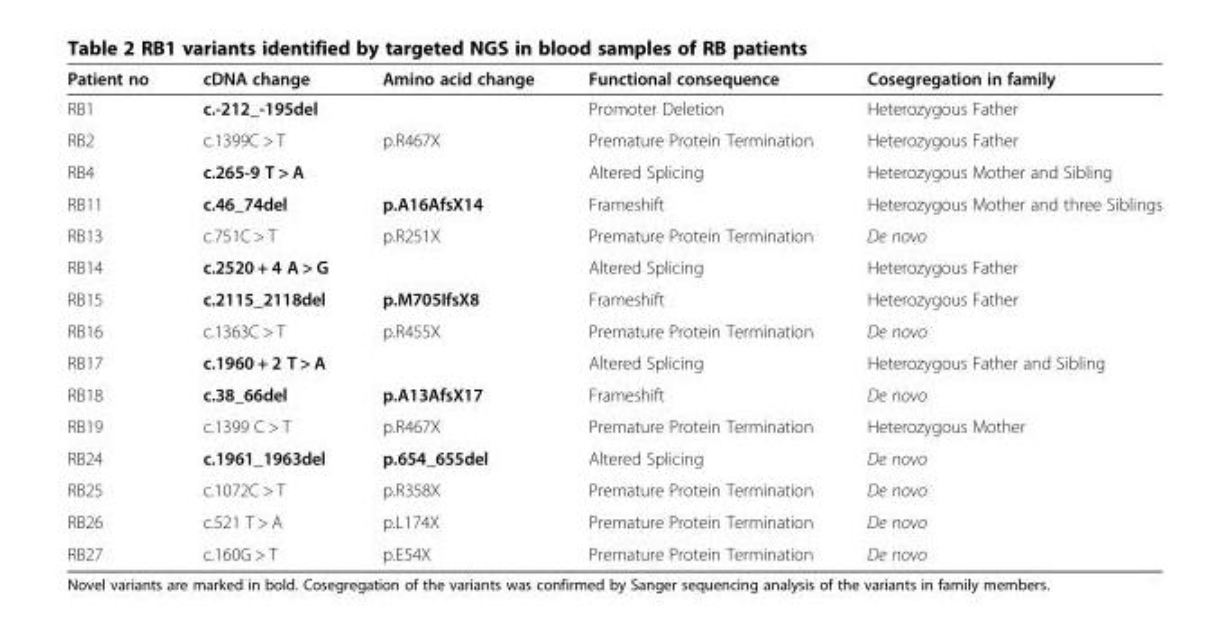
<table><thead><tr><td>Patient no</td><td>cDNA change</td><td>Amino acid change</td><td>Functional consequence</td><td>Cosegregation in family</td></tr></thead><tbody><tr><td>RB1</td><td>c.-212_-195del</td><td></td><td>Promoter Deletion</td><td>Heterozygous Father</td></tr><tr><td>RB2</td><td>c.1399C &gt; T</td><td>p.R467X</td><td>Premature Protein Termination</td><td>Heterozygous Father</td></tr><tr><td>RB4</td><td>c.265-9 T &gt; A</td><td></td><td>Altered Splicing</td><td>Heterozygous Mother and Sibling</td></tr><tr><td>RB11</td><td>c.46_74del</td><td>p.A16AfsX14</td><td>Frameshift</td><td>Heterozygous Mother and three Siblings</td></tr><tr><td>RB13</td><td>c.751C &gt; T</td><td>p.R251X</td><td>Premature Protein Termination</td><td>De novo</td></tr><tr><td>RB14</td><td>c.2520 + 4 A &gt; G</td><td></td><td>Altered Splicing</td><td>Heterozygous Father</td></tr><tr><td>RB15</td><td>c.2115_2118del</td><td>p.M705IfsX8</td><td>Frameshift</td><td>Heterozygous Father</td></tr><tr><td>RB16</td><td>c.1363C &gt; T</td><td>p.R455X</td><td>Premature Protein Termination</td><td>De novo</td></tr><tr><td>RB17</td><td>c.1960 + 2 T &gt; A</td><td></td><td>Altered Splicing</td><td>Heterozygous Father and Sibling</td></tr><tr><td>RB18</td><td>c.38_66del</td><td>p.A13AfsX17</td><td>Frameshift</td><td>De novo</td></tr><tr><td>RB19</td><td>c.1399 C &gt; T</td><td>p.R467X</td><td>Premature Protein Termination</td><td>Heterozygous Mother</td></tr><tr><td>RB24</td><td>c.1961_1963del</td><td>p.654_655del</td><td>Altered Splicing</td><td>De novo</td></tr><tr><td>RB25</td><td>c.1072C &gt; T</td><td>p.R358X</td><td>Premature Protein Termination</td><td>De novo</td></tr><tr><td>RB26</td><td>c.521 T &gt; A</td><td>p.L174X</td><td>Premature Protein Termination</td><td>De novo</td></tr><tr><td>RB27</td><td>c.160G &gt; T</td><td>p.E54X</td><td>Premature Protein Termination</td><td>De novo</td></tr></tbody></table>